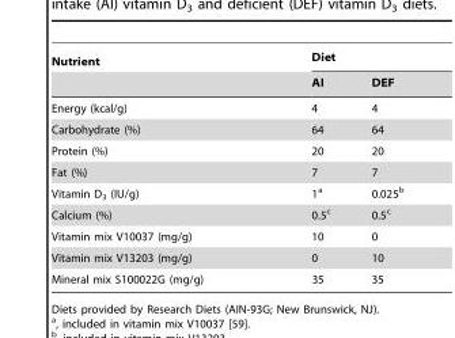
<table><thead><tr><td rowspan="2">Nutrient</td><td colspan="2">Diet</td></tr><tr><td>AI</td><td>DEF</td></tr></thead><tbody><tr><td>Energy (kcal/g)</td><td>4</td><td>4</td></tr><tr><td>Carbohydrate (%)</td><td>64</td><td>64</td></tr><tr><td>Protein (%)</td><td>20</td><td>20</td></tr><tr><td>Fat (%)</td><td>7</td><td>7</td></tr><tr><td>Vitamin D<sub>3</sub> (IU/g)</td><td>1<sup>a</sup></td><td>0.025<sup>b</sup></td></tr><tr><td>Calcium (%)</td><td>0.5<sup>c</sup></td><td>0.5<sup>c</sup></td></tr><tr><td>Vitamin mix V10037 (mg/g)</td><td>10</td><td>0</td></tr><tr><td>Vitamin mix V13203 (mg/g)</td><td>0</td><td>10</td></tr><tr><td>Mineral mix S100022G (mg/g)</td><td>35</td><td>35</td></tr></tbody></table>